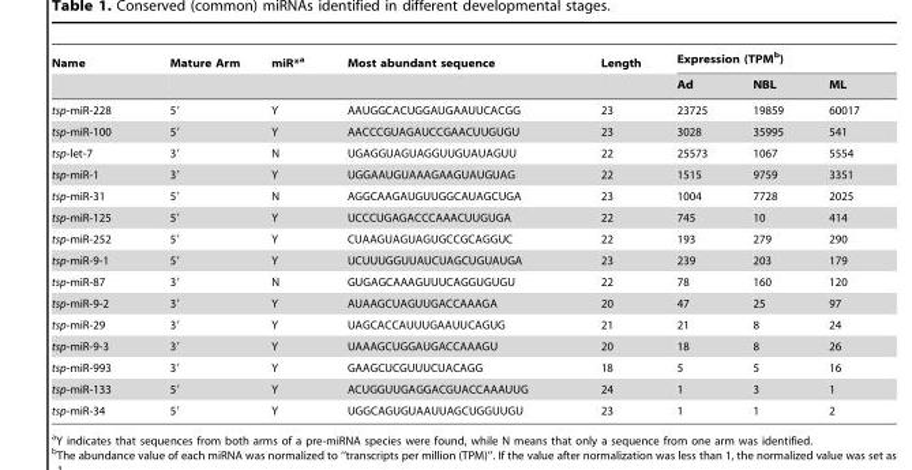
<table><thead><tr><td rowspan="2">Name</td><td rowspan="2">Mature Arm</td><td rowspan="2">miR*<sup>a</sup></td><td rowspan="2">Most abundant sequence</td><td rowspan="2">Length</td><td colspan="3">Expression (TPM<sup>b</sup>)</td></tr><tr><td>Ad</td><td>NBL</td><td>ML</td></tr></thead><tbody><tr><td>tsp-miR-228</td><td>5′</td><td>Y</td><td>AAUGGCACUGGAUGAAUUCACGG</td><td>23</td><td>23725</td><td>19859</td><td>60017</td></tr><tr><td>tsp-miR-100</td><td>5′</td><td>Y</td><td>AACCCGUAGAUCCGAACUUGUGU</td><td>23</td><td>3028</td><td>35995</td><td>541</td></tr><tr><td>tsp-let-7</td><td>3′</td><td>N</td><td>UGAGGUAGUAGGUUGUAUAGUU</td><td>22</td><td>25573</td><td>1067</td><td>5554</td></tr><tr><td>tsp-miR-1</td><td>3′</td><td>Y</td><td>UGGAAUGUAAAGAAGUAUGUAG</td><td>22</td><td>1515</td><td>9759</td><td>3351</td></tr><tr><td>tsp-miR-31</td><td>5′</td><td>N</td><td>AGGCAAGAUGUUGGCAUAGCUGA</td><td>23</td><td>1004</td><td>7728</td><td>2025</td></tr><tr><td>tsp-miR-125</td><td>5′</td><td>Y</td><td>UCCCUGAGACCCAAACUUGUGA</td><td>22</td><td>745</td><td>10</td><td>414</td></tr><tr><td>tsp-miR-252</td><td>5′</td><td>Y</td><td>CUAAGUAGUAGUGCCGCAGGUC</td><td>22</td><td>193</td><td>279</td><td>290</td></tr><tr><td>tsp-miR-9-1</td><td>5′</td><td>Y</td><td>UCUUUGGUUAUCUAGCUGUAUGA</td><td>23</td><td>239</td><td>203</td><td>179</td></tr><tr><td>tsp-miR-87</td><td>3′</td><td>N</td><td>GUGAGCAAAGUUUCAGGUGUGU</td><td>22</td><td>78</td><td>160</td><td>120</td></tr><tr><td>tsp-miR-9-2</td><td>3′</td><td>Y</td><td>AUAAGCUAGUUGACCAAAGA</td><td>20</td><td>47</td><td>25</td><td>97</td></tr><tr><td>tsp-miR-29</td><td>3′</td><td>Y</td><td>UAGCACCAUUUGAAUUCAGUG</td><td>21</td><td>21</td><td>8</td><td>24</td></tr><tr><td>tsp-miR-9-3</td><td>3′</td><td>Y</td><td>UAAAGCUGGAUGACCAAAGU</td><td>20</td><td>18</td><td>8</td><td>26</td></tr><tr><td>tsp-miR-993</td><td>3′</td><td>Y</td><td>GAAGCUCGUUUCUACAGG</td><td>18</td><td>5</td><td>5</td><td>16</td></tr><tr><td>tsp-miR-133</td><td>5′</td><td>Y</td><td>ACUGGUUGAGGACGUACCAAAUUG</td><td>24</td><td>1</td><td>3</td><td>1</td></tr><tr><td>tsp-miR-34</td><td>5′</td><td>Y</td><td>UGGCAGUGUAAUUAGCUGGUUGU</td><td>23</td><td>1</td><td>1</td><td>2</td></tr></tbody></table>